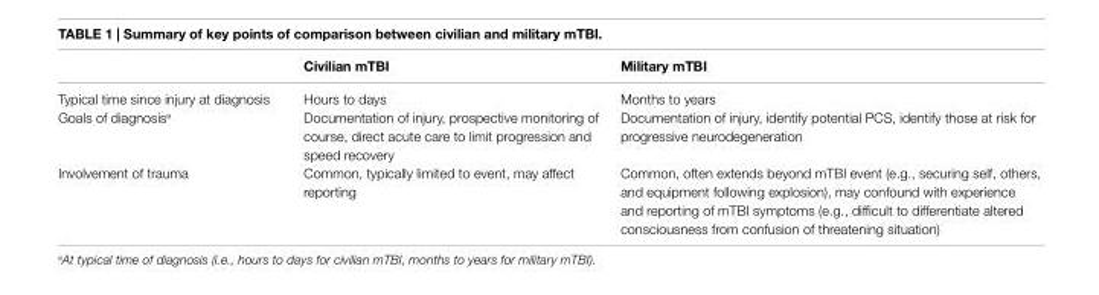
<table><thead><tr><td></td><td>civilian mtBi</td><td>Military mtBi</td></tr></thead><tbody><tr><td>Typical time since injury at diagnosis</td><td>Hours to days</td><td>Months to years</td></tr><tr><td>Goals of diagnosis<sup>a</sup></td><td>Documentation of injury, prospective monitoring of course, direct acute care to limit progression and speed recovery</td><td>Documentation of injury, identify potential PCS, identify those at risk for progressive neurodegeneration</td></tr><tr><td>Involvement of trauma</td><td>Common, typically limited to event, may affect reporting</td><td>Common, often extends beyond mTBI event (e.g., securing self, others, and equipment following explosion), may confound with experience and reporting of mTBI symptoms (e.g., difficult to differentiate altered consciousness from confusion of threatening situation)</td></tr></tbody></table>